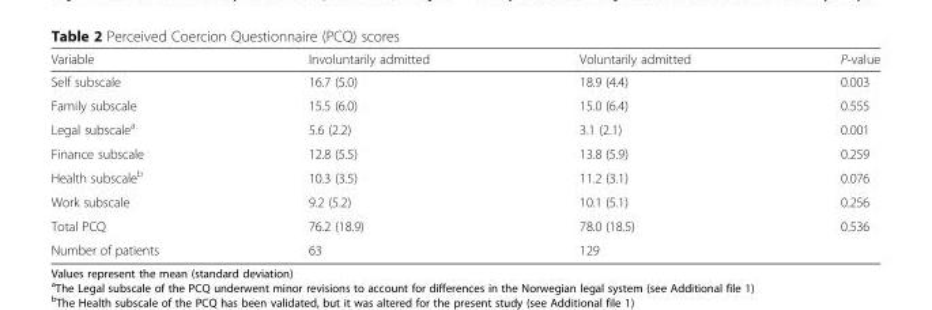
<table><thead><tr><td>Variable</td><td>Involuntarily admitted</td><td>Voluntarily admitted</td><td>P-value</td></tr></thead><tbody><tr><td>Self subscale</td><td>16.7 (5.0)</td><td>18.9 (4.4)</td><td>0.003</td></tr><tr><td>Family subscale</td><td>15.5 (6.0)</td><td>15.0 (6.4)</td><td>0.555</td></tr><tr><td>Legal subscale<sup>a</sup></td><td>5.6 (2.2)</td><td>3.1 (2.1)</td><td>0.001</td></tr><tr><td>Finance subscale</td><td>12.8 (5.5)</td><td>13.8 (5.9)</td><td>0.259</td></tr><tr><td>Health subscale<sup>b</sup></td><td>10.3 (3.5)</td><td>11.2 (3.1)</td><td>0.076</td></tr><tr><td>Work subscale</td><td>9.2 (5.2)</td><td>10.1 (5.1)</td><td>0.256</td></tr><tr><td>Total PCQ</td><td>76.2 (18.9)</td><td>78.0 (18.5)</td><td>0.536</td></tr><tr><td>Number of patients</td><td>63</td><td>129</td><td></td></tr></tbody></table>